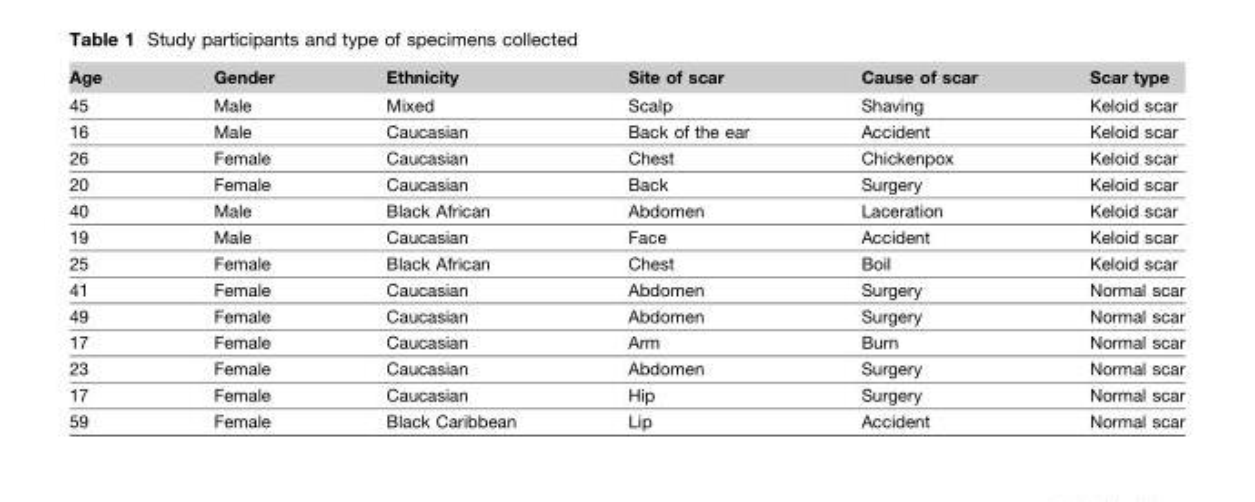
<table><thead><tr><td>Age</td><td>Gender</td><td>Ethnicity</td><td>Site of scar</td><td>Cause of scar</td><td>Scar type</td></tr></thead><tbody><tr><td>45</td><td>Male</td><td>Mixed</td><td>Scalp</td><td>Shaving</td><td>Keloid scar</td></tr><tr><td>16</td><td>Male</td><td>Caucasian</td><td>Back of the ear</td><td>Accident</td><td>Keloid scar</td></tr><tr><td>26</td><td>Female</td><td>Caucasian</td><td>Chest</td><td>Chickenpox</td><td>Keloid scar</td></tr><tr><td>20</td><td>Female</td><td>Caucasian</td><td>Back</td><td>Surgery</td><td>Keloid scar</td></tr><tr><td>40</td><td>Male</td><td>Black African</td><td>Abdomen</td><td>Laceration</td><td>Keloid scar</td></tr><tr><td>19</td><td>Male</td><td>Caucasian</td><td>Face</td><td>Accident</td><td>Keloid scar</td></tr><tr><td>25</td><td>Female</td><td>Black African</td><td>Chest</td><td>Boil</td><td>Keloid scar</td></tr><tr><td>41</td><td>Female</td><td>Caucasian</td><td>Abdomen</td><td>Surgery</td><td>Normal scar</td></tr><tr><td>49</td><td>Female</td><td>Caucasian</td><td>Abdomen</td><td>Surgery</td><td>Normal scar</td></tr><tr><td>17</td><td>Female</td><td>Caucasian</td><td>Arm</td><td>Burn</td><td>Normal scar</td></tr><tr><td>23</td><td>Female</td><td>Caucasian</td><td>Abdomen</td><td>Surgery</td><td>Normal scar</td></tr><tr><td>17</td><td>Female</td><td>Caucasian</td><td>Hip</td><td>Surgery</td><td>Normal scar</td></tr><tr><td>59</td><td>Female</td><td>Black Caribbean</td><td>Lip</td><td>Accident</td><td>Normal scar</td></tr></tbody></table>